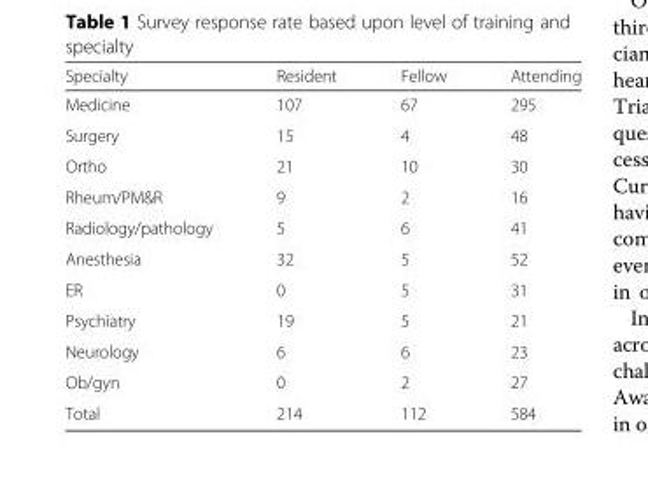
<table><thead><tr><td>Specialty</td><td>Resident</td><td>Fellow</td><td>Attending</td></tr></thead><tbody><tr><td>Medicine</td><td>107</td><td>67</td><td>295</td></tr><tr><td>Surgery</td><td>15</td><td>4</td><td>48</td></tr><tr><td>Ortho</td><td>21</td><td>10</td><td>30</td></tr><tr><td>Rheum/PM&amp;R</td><td>9</td><td>2</td><td>16</td></tr><tr><td>Radiology/pathology</td><td>5</td><td>6</td><td>41</td></tr><tr><td>Anesthesia</td><td>32</td><td>5</td><td>52</td></tr><tr><td>ER</td><td>0</td><td>5</td><td>31</td></tr><tr><td>Psychiatry</td><td>19</td><td>5</td><td>21</td></tr><tr><td>Neurology</td><td>6</td><td>6</td><td>23</td></tr><tr><td>Ob/gyn</td><td>0</td><td>2</td><td>27</td></tr><tr><td>Total</td><td>214</td><td>112</td><td>584</td></tr></tbody></table>